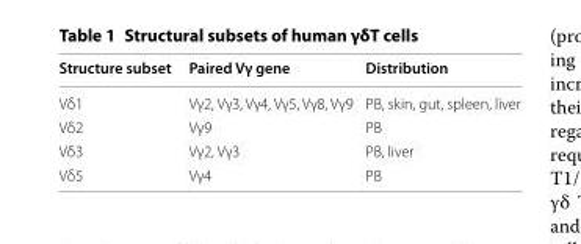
<table><thead><tr><td>Structure subset</td><td>Paired Vγ gene</td><td>Distribution</td></tr></thead><tbody><tr><td>Vδ1</td><td>Vγ2, Vγ3, Vγ4, Vγ5, Vγ8, Vγ9</td><td>PB, skin, gut, spleen, liver</td></tr><tr><td>Vδ2</td><td>Vγ9</td><td>PB</td></tr><tr><td>Vδ3</td><td>Vγ2, Vγ3</td><td>PB, liver</td></tr><tr><td>Vδ5</td><td>Vγ4</td><td>PB</td></tr></tbody></table>